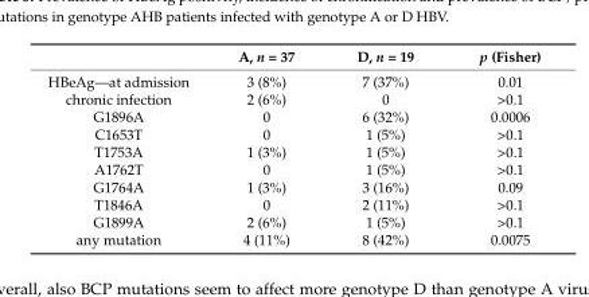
<table><thead><tr><td></td><td>A, n = 37</td><td>D, n = 19</td><td>p (Fisher)</td></tr></thead><tbody><tr><td>HBeAg—at admission</td><td>3 (8%)</td><td>7 (37%)</td><td>0.01</td></tr><tr><td>chronic infection</td><td>2 (6%)</td><td>0</td><td>&gt;0.1</td></tr><tr><td>G1896A</td><td>0</td><td>6 (32%)</td><td>0.0006</td></tr><tr><td>C1653T</td><td>0</td><td>1 (5%)</td><td>&gt;0.1</td></tr><tr><td>T1753A</td><td>1 (3%)</td><td>1 (5%)</td><td>&gt;0.1</td></tr><tr><td>A1762T</td><td>0</td><td>1 (5%)</td><td>&gt;0.1</td></tr><tr><td>G1764A</td><td>1 (3%)</td><td>3 (16%)</td><td>0.09</td></tr><tr><td>T1846A</td><td>0</td><td>2 (11%)</td><td>&gt;0.1</td></tr><tr><td>G1899A</td><td>2 (6%)</td><td>1 (5%)</td><td>&gt;0.1</td></tr><tr><td>any mutation</td><td>4 (11%)</td><td>8 (42%)</td><td>0.0075</td></tr></tbody></table>